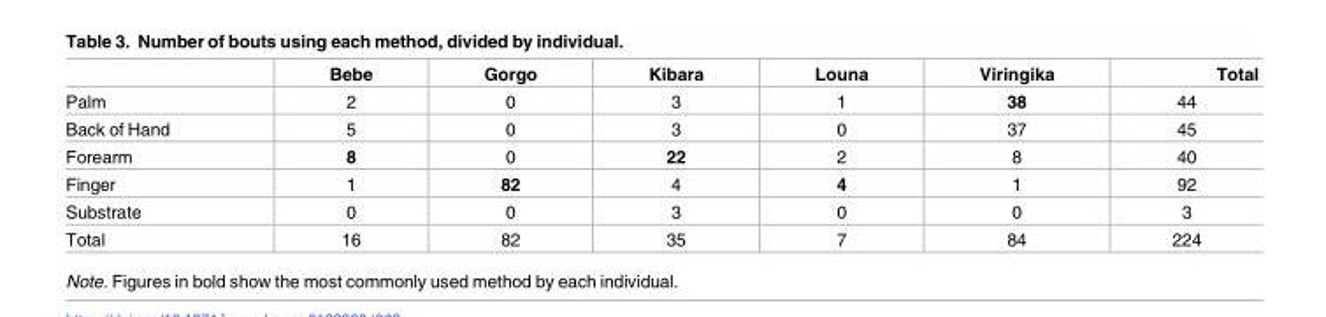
<table><thead><tr><td></td><td>Bebe</td><td>Gorgo</td><td>Kibara</td><td>Louna</td><td>Viringika</td><td>Total</td></tr></thead><tbody><tr><td>Palm</td><td>2</td><td>0</td><td>3</td><td>1</td><td>38</td><td>44</td></tr><tr><td>Back of Hand</td><td>5</td><td>0</td><td>3</td><td>0</td><td>37</td><td>45</td></tr><tr><td>Forearm</td><td>8</td><td>0</td><td>22</td><td>2</td><td>8</td><td>40</td></tr><tr><td>Finger</td><td>1</td><td>82</td><td>4</td><td>4</td><td>1</td><td>92</td></tr><tr><td>Substrate</td><td>0</td><td>0</td><td>3</td><td>0</td><td>0</td><td>3</td></tr><tr><td>Total</td><td>16</td><td>82</td><td>35</td><td>7</td><td>84</td><td>224</td></tr></tbody></table>